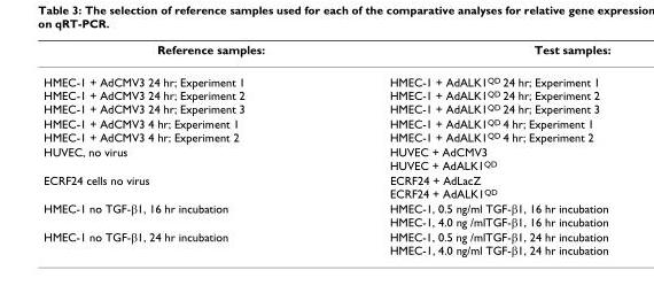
<table><thead><tr><td>Reference samples:</td><td>Test samples:</td></tr></thead><tbody><tr><td>HMEC-1 + AdCMV3 24 hr; Experiment 1 HMEC-1 + AdCMV3 24 hr; Experiment 2 HMEC-1 + AdCMV3 24 hr; Experiment 3</td><td>HMEC-1 + AdALK1<sup>QD</sup> 24 hr; Experiment 1 HMEC-1 + AdALK1<sup>QD</sup> 24 hr; Experiment 2 HMEC-1 + AdALK1<sup>QD</sup> 24 hr; Experiment 3</td></tr><tr><td>HMEC-1 + AdCMV3 4 hr; Experiment 1 HMEC-1 + AdCMV3 4 hr; Experiment 2</td><td>HMEC-1 + AdALK1<sup>QD</sup> 4 hr; Experiment 1 HMEC-1 + AdALK1<sup>QD</sup> 4 hr; Experiment 2</td></tr><tr><td>HUVEC, no virus</td><td>HUVEC + AdCMV3 HUVEC + AdALK1<sup>QD</sup></td></tr><tr><td>ECRF24 cells no virus</td><td>ECRF24 + AdLacZ ECRF24 + AdALK1<sup>QD</sup></td></tr><tr><td>HMEC-1 no TGF-β1, 16 hr incubation</td><td>HMEC-1, 0.5 ng/ml TGF-β1, 16 hr incubation HMEC-1, 4.0 ng /mlTGF-β1, 16 hr incubation</td></tr><tr><td>HMEC-1 no TGF-β1, 24 hr incubation</td><td>HMEC-1, 0.5 ng /mlTGF-β1, 24 hr incubation HMEC-1, 4.0 ng/ml TGF-β1, 24 hr incubation</td></tr></tbody></table>